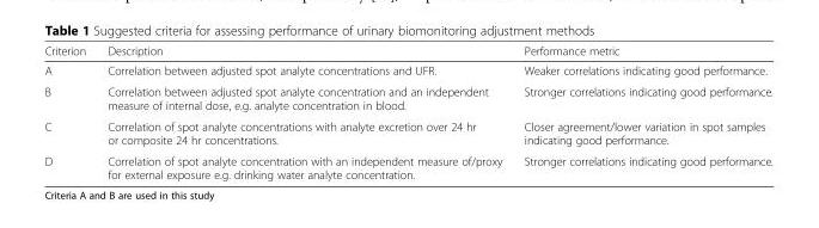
<table><thead><tr><td>Criterion</td><td>Description</td><td>Performance metric</td></tr></thead><tbody><tr><td>A</td><td>Correlation between adjusted spot analyte concentrations and UFR.</td><td>Weaker correlations indicating good performance.</td></tr><tr><td>B</td><td>Correlation between adjusted spot analyte concentration and an independent measure of internal dose, e.g. analyte concentration in blood.</td><td>Stronger correlations indicating good performance.</td></tr><tr><td>C</td><td>Correlation of spot analyte concentrations with analyte excretion over 24 hr or composite 24 hr concentrations.</td><td>Closer agreement/lower variation in spot samples indicating good performance.</td></tr><tr><td>D</td><td>Correlation of spot analyte concentration with an independent measure of/proxy for external exposure e.g. drinking water analyte concentration.</td><td>Stronger correlations indicating good performance.</td></tr></tbody></table>